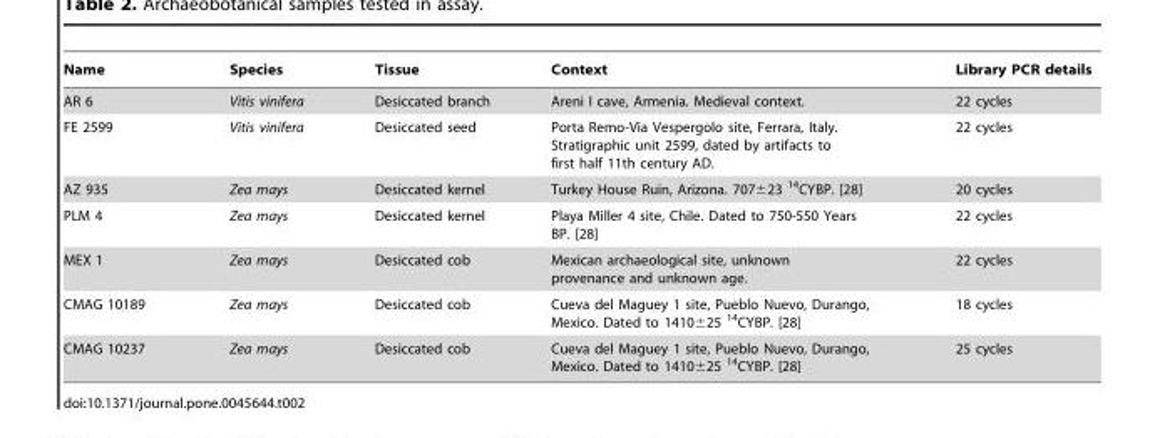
<table><thead><tr><td>Name</td><td>Species</td><td>Tissue</td><td>Context</td><td>Library PCR details</td></tr></thead><tbody><tr><td>AR 6</td><td>Vitis vinifera</td><td>Desiccated branch</td><td>Areni I cave, Armenia. Medieval context.</td><td>22 cycles</td></tr><tr><td>FE 2599</td><td>Vitis vinifera</td><td>Desiccated seed</td><td>Porta Remo-Via Vespergolo site, Ferrara, Italy. Stratigraphic unit 2599, dated by artifacts to first half 11th century AD.</td><td>22 cycles</td></tr><tr><td>AZ 935</td><td>Zea mays</td><td>Desiccated kernel</td><td>Turkey House Ruin, Arizona. 707±23 <sup>14</sup>CYBP. [28]</td><td>20 cycles</td></tr><tr><td>PLM 4</td><td>Zea mays</td><td>Desiccated kernel</td><td>Playa Miller 4 site, Chile. Dated to 750-550 Years BP. [28]</td><td>22 cycles</td></tr><tr><td>MEX 1</td><td>Zea mays</td><td>Desiccated cob</td><td>Mexican archaeological site, unknown provenance and unknown age.</td><td>22 cycles</td></tr><tr><td>CMAG 10189</td><td>Zea mays</td><td>Desiccated cob</td><td>Cueva del Maguey 1 site, Pueblo Nuevo, Durango, Mexico. Dated to 1410±25 <sup>14</sup>CYBP. [28]</td><td>18 cycles</td></tr><tr><td>CMAG 10237</td><td>Zea mays</td><td>Desiccated cob</td><td>Cueva del Maguey 1 site, Pueblo Nuevo, Durango, Mexico. Dated to 1410±25 <sup>14</sup>CYBP. [28]</td><td>25 cycles</td></tr></tbody></table>